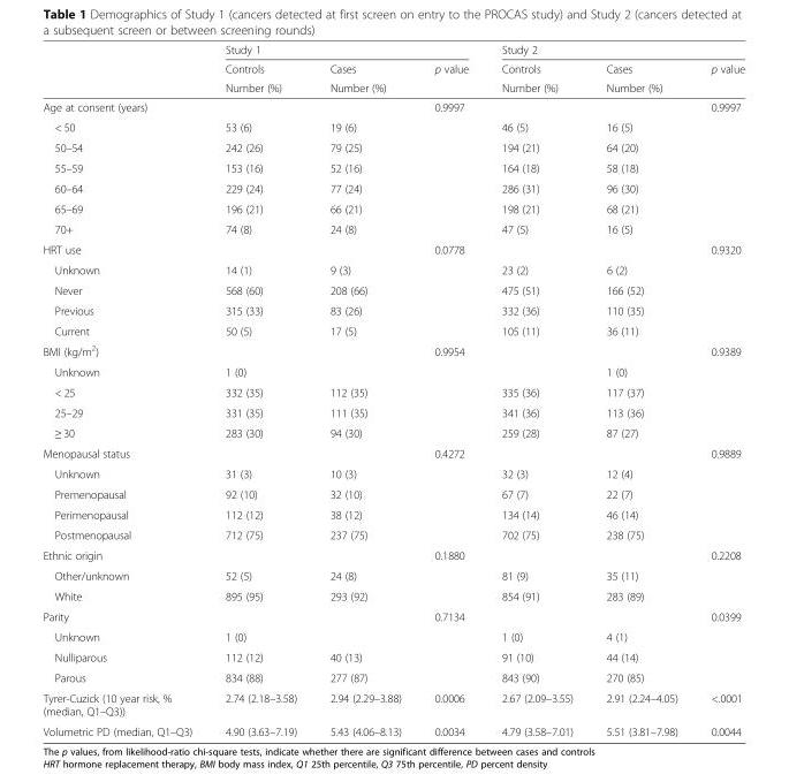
<table><thead><tr><td rowspan="3"></td><td colspan="3">Study 1</td><td colspan="3">Study 2</td></tr><tr><td rowspan="2">Controls Number (%)</td><td rowspan="2">Cases Number (%)</td><td rowspan="2">p value</td><td rowspan="2">Controls Number (%)</td><td rowspan="2">Cases Number (%)</td><td rowspan="2">p value</td></tr><tr></tr></thead><tbody><tr><td>Age at consent (years)</td><td></td><td></td><td>0.9997</td><td></td><td></td><td>0.9997</td></tr><tr><td>&lt; 50</td><td>53 (6)</td><td>19 (6)</td><td></td><td>46 (5)</td><td>16 (5)</td><td></td></tr><tr><td>50–54</td><td>242 (26)</td><td>79 (25)</td><td></td><td>194 (21)</td><td>64 (20)</td><td></td></tr><tr><td>55–59</td><td>153 (16)</td><td>52 (16)</td><td></td><td>164 (18)</td><td>58 (18)</td><td></td></tr><tr><td>60–64</td><td>229 (24)</td><td>77 (24)</td><td></td><td>286 (31)</td><td>96 (30)</td><td></td></tr><tr><td>65–69</td><td>196 (21)</td><td>66 (21)</td><td></td><td>198 (21)</td><td>68 (21)</td><td></td></tr><tr><td>70+</td><td>74 (8)</td><td>24 (8)</td><td></td><td>47 (5)</td><td>16 (5)</td><td></td></tr><tr><td>HRT use</td><td></td><td></td><td>0.0778</td><td></td><td></td><td>0.9320</td></tr><tr><td>Unknown</td><td>14 (1)</td><td>9 (3)</td><td></td><td>23 (2)</td><td>6 (2)</td><td></td></tr><tr><td>Never</td><td>568 (60)</td><td>208 (66)</td><td></td><td>475 (51)</td><td>166 (52)</td><td></td></tr><tr><td>Previous</td><td>315 (33)</td><td>83 (26)</td><td></td><td>332 (36)</td><td>110 (35)</td><td></td></tr><tr><td>Current</td><td>50 (5)</td><td>17 (5)</td><td></td><td>105 (11)</td><td>36 (11)</td><td></td></tr><tr><td>BMI (kg/m<sup>2</sup>)</td><td></td><td></td><td>0.9954</td><td></td><td></td><td>0.9389</td></tr><tr><td>Unknown</td><td>1 (0)</td><td></td><td></td><td></td><td>1 (0)</td><td></td></tr><tr><td>&lt; 25</td><td>332 (35)</td><td>112 (35)</td><td></td><td>335 (36)</td><td>117 (37)</td><td></td></tr><tr><td>25–29</td><td>331 (35)</td><td>111 (35)</td><td></td><td>341 (36)</td><td>113 (36)</td><td></td></tr><tr><td>≥ 30</td><td>283 (30)</td><td>94 (30)</td><td></td><td>259 (28)</td><td>87 (27)</td><td></td></tr><tr><td>Menopausal status</td><td></td><td></td><td>0.4272</td><td></td><td></td><td>0.9889</td></tr><tr><td>Unknown</td><td>31 (3)</td><td>10 (3)</td><td></td><td>32 (3)</td><td>12 (4)</td><td></td></tr><tr><td>Premenopausal</td><td>92 (10)</td><td>32 (10)</td><td></td><td>67 (7)</td><td>22 (7)</td><td></td></tr><tr><td>Perimenopausal</td><td>112 (12)</td><td>38 (12)</td><td></td><td>134 (14)</td><td>46 (14)</td><td></td></tr><tr><td>Postmenopausal</td><td>712 (75)</td><td>237 (75)</td><td></td><td>702 (75)</td><td>238 (75)</td><td></td></tr><tr><td>Ethnic origin</td><td></td><td></td><td>0.1880</td><td></td><td></td><td>0.2208</td></tr><tr><td>Other/unknown</td><td>52 (5)</td><td>24 (8)</td><td></td><td>81 (9)</td><td>35 (11)</td><td></td></tr><tr><td>White</td><td>895 (95)</td><td>293 (92)</td><td></td><td>854 (91)</td><td>283 (89)</td><td></td></tr><tr><td>Parity</td><td></td><td></td><td>0.7134</td><td></td><td></td><td>0.0399</td></tr><tr><td>Unknown</td><td>1 (0)</td><td></td><td></td><td>1 (0)</td><td>4 (1)</td><td></td></tr><tr><td>Nulliparous</td><td>112 (12)</td><td>40 (13)</td><td></td><td>91 (10)</td><td>44 (14)</td><td></td></tr><tr><td>Parous</td><td>834 (88)</td><td>277 (87)</td><td></td><td>843 (90)</td><td>270 (85)</td><td></td></tr><tr><td>Tyrer-Cuzick (10 year risk, % (median, Q1–Q3))</td><td>2.74 (2.18–3.58)</td><td>2.94 (2.29–3.88)</td><td>0.0006</td><td>2.67 (2.09–3.55)</td><td>2.91 (2.24–4.05)</td><td>&lt;.0001</td></tr><tr><td>Volumetric PD (median, Q1–Q3)</td><td>4.90 (3.63–7.19)</td><td>5.43 (4.06–8.13)</td><td>0.0034</td><td>4.79 (3.58–7.01)</td><td>5.51 (3.81–7.98)</td><td>0.0044</td></tr></tbody></table>